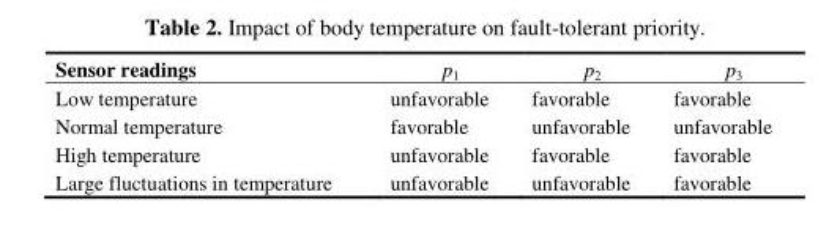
<table><thead><tr><td>Sensor readings</td><td>p<sub>1</sub></td><td>p<sub>2</sub></td><td>p<sub>3</sub></td></tr></thead><tbody><tr><td>Low temperature</td><td>unfavorable</td><td>favorable</td><td>favorable</td></tr><tr><td>Normal temperature</td><td>favorable</td><td>unfavorable</td><td>unfavorable</td></tr><tr><td>High temperature</td><td>unfavorable</td><td>favorable</td><td>favorable</td></tr><tr><td>Large fluctuations in temperature</td><td>unfavorable</td><td>unfavorable</td><td>favorable</td></tr></tbody></table>